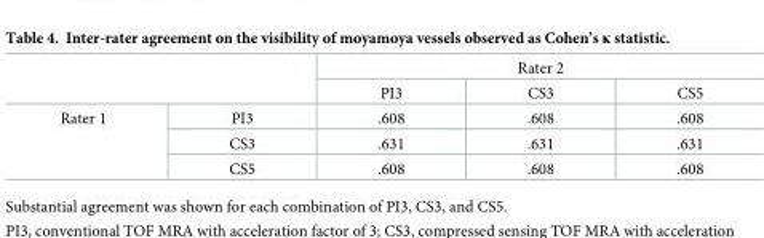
<table><thead><tr><td rowspan="2"></td><td rowspan="2"></td><td colspan="3">Rater 2</td></tr><tr><td>PI3</td><td>CS3</td><td>CS5</td></tr></thead><tbody><tr><td rowspan="3">Rater 1</td><td>PI3</td><td>.608</td><td>.608</td><td>.608</td></tr><tr><td>CS3</td><td>.631</td><td>.631</td><td>.631</td></tr><tr><td>CS5</td><td>.608</td><td>.608</td><td>.608</td></tr></tbody></table>